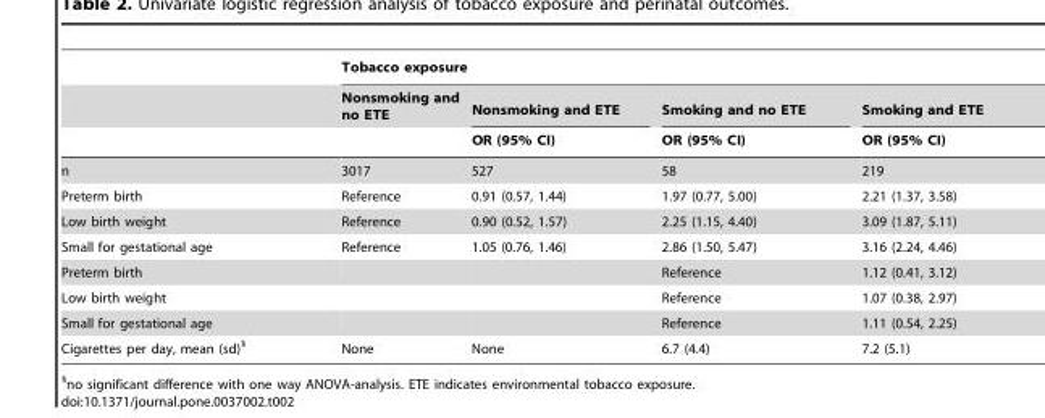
<table><thead><tr><td rowspan="3"></td><td colspan="4">Tobacco exposure</td></tr><tr><td rowspan="2">Nonsmoking and no ETE</td><td rowspan="2">Nonsmoking and ETE OR (95% CI)</td><td rowspan="2">Smoking and no ETE OR (95% CI)</td><td rowspan="2">Smoking and ETE OR (95% CI)</td></tr><tr></tr></thead><tbody><tr><td>n</td><td>3017</td><td>527</td><td>58</td><td>219</td></tr><tr><td>Preterm birth</td><td>Reference</td><td>0.91 (0.57, 1.44)</td><td>1.97 (0.77, 5.00)</td><td>2.21 (1.37, 3.58)</td></tr><tr><td>Low birth weight</td><td>Reference</td><td>0.90 (0.52, 1.57)</td><td>2.25 (1.15, 4.40)</td><td>3.09 (1.87, 5.11)</td></tr><tr><td>Small for gestational age</td><td>Reference</td><td>1.05 (0.76, 1.46)</td><td>2.86 (1.50, 5.47)</td><td>3.16 (2.24, 4.46)</td></tr><tr><td>Preterm birth</td><td></td><td></td><td>Reference</td><td>1.12 (0.41, 3.12)</td></tr><tr><td>Low birth weight</td><td></td><td></td><td>Reference</td><td>1.07 (0.38, 2.97)</td></tr><tr><td>Small for gestational age</td><td></td><td></td><td>Reference</td><td>1.11 (0.54, 2.25)</td></tr><tr><td>Cigarettes per day, mean (sd)§</td><td>None</td><td>None</td><td>6.7 (4.4)</td><td>7.2 (5.1)</td></tr></tbody></table>